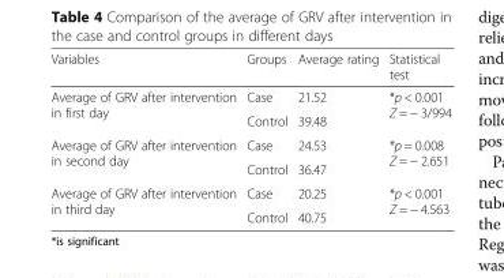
<table><thead><tr><td>Variables</td><td>Groups</td><td>Average rating</td><td>Statistical test</td></tr></thead><tbody><tr><td rowspan="2">Average of GRV after intervention in first day</td><td>Case</td><td>21.52</td><td rowspan="2">*p &lt; 0.001 Z = − 3/994</td></tr><tr><td>Control</td><td>39.48</td></tr><tr><td rowspan="2">Average of GRV after intervention in second day</td><td>Case</td><td>24.53</td><td rowspan="2">*p = 0.008 Z = − 2.651</td></tr><tr><td>Control</td><td>36.47</td></tr><tr><td rowspan="2">Average of GRV after intervention in third day</td><td>Case</td><td>20.25</td><td rowspan="2">*p &lt; 0.001 Z = − 4.563</td></tr><tr><td>Control</td><td>40.75</td></tr></tbody></table>